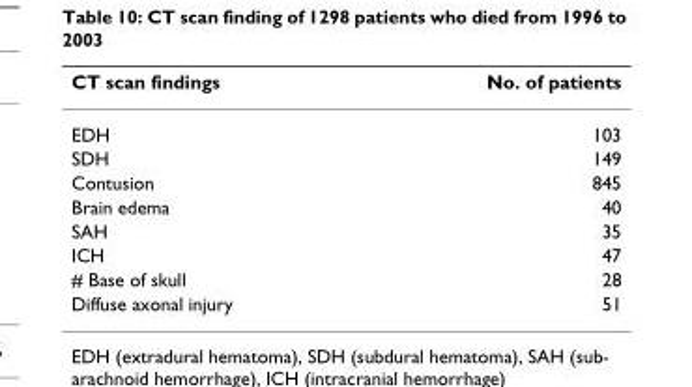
<table><thead><tr><td>CT scan findings</td><td>No. of patients</td></tr></thead><tbody><tr><td>EDH</td><td>103</td></tr><tr><td>SDH</td><td>149</td></tr><tr><td>Contusion</td><td>845</td></tr><tr><td>Brain edema</td><td>40</td></tr><tr><td>SAH</td><td>35</td></tr><tr><td>ICH</td><td>47</td></tr><tr><td># Base of skull</td><td>28</td></tr><tr><td>Diffuse axonal injury</td><td>51</td></tr></tbody></table>